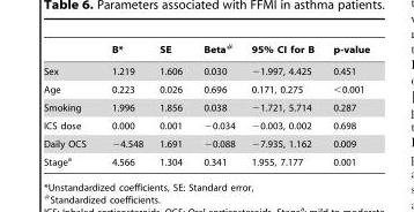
<table><thead><tr><td></td><td>B*</td><td>SE</td><td>Beta#</td><td>95% CI for B</td><td>p-value</td></tr></thead><tbody><tr><td>Sex</td><td>1.219</td><td>1.606</td><td>0.030</td><td>−1.997, 4.425</td><td>0.451</td></tr><tr><td>Age</td><td>0.223</td><td>0.026</td><td>0.696</td><td>0.171, 0.275</td><td>&lt;0.001</td></tr><tr><td>Smoking</td><td>1.996</td><td>1.856</td><td>0.038</td><td>−1.721, 5.714</td><td>0.287</td></tr><tr><td>ICS dose</td><td>0.000</td><td>0.001</td><td>−0.034</td><td>−0.003, 0.002</td><td>0.698</td></tr><tr><td>Daily OCS</td><td>−4.548</td><td>1.691</td><td>−0.088</td><td>−7.935, 1.162</td><td>0.009</td></tr><tr><td>Stage<sup>a</sup></td><td>4.566</td><td>1.304</td><td>0.341</td><td>1.955, 7.177</td><td>0.001</td></tr></tbody></table>